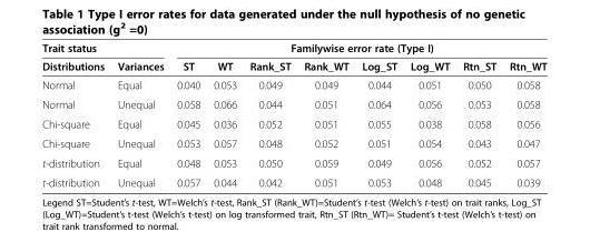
<table><thead><tr><td colspan="2">Trait status</td><td colspan="8">Familywise error rate (Type I)</td></tr><tr><td>Distributions</td><td>Variances</td><td>ST</td><td>WT</td><td>Rank_ST</td><td>Rank_WT</td><td>Log_ST</td><td>Log_WT</td><td>Rtn_ST</td><td>Rtn_WT</td></tr></thead><tbody><tr><td>Normal</td><td>Equal</td><td>0.040</td><td>0.053</td><td>0.049</td><td>0.049</td><td>0.044</td><td>0.051</td><td>0.050</td><td>0.058</td></tr><tr><td>Normal</td><td>Unequal</td><td>0.058</td><td>0.066</td><td>0.044</td><td>0.051</td><td>0.064</td><td>0.056</td><td>0.053</td><td>0.058</td></tr><tr><td>Chi-square</td><td>Equal</td><td>0.045</td><td>0.036</td><td>0.052</td><td>0.051</td><td>0.055</td><td>0.038</td><td>0.058</td><td>0.056</td></tr><tr><td>Chi-square</td><td>Unequal</td><td>0.053</td><td>0.057</td><td>0.048</td><td>0.052</td><td>0.051</td><td>0.054</td><td>0.043</td><td>0.047</td></tr><tr><td>t-distribution</td><td>Equal</td><td>0.048</td><td>0.053</td><td>0.050</td><td>0.059</td><td>0.049</td><td>0.056</td><td>0.052</td><td>0.057</td></tr><tr><td>t-distribution</td><td>Unequal</td><td>0.057</td><td>0.044</td><td>0.042</td><td>0.051</td><td>0.053</td><td>0.048</td><td>0.045</td><td>0.039</td></tr></tbody></table>